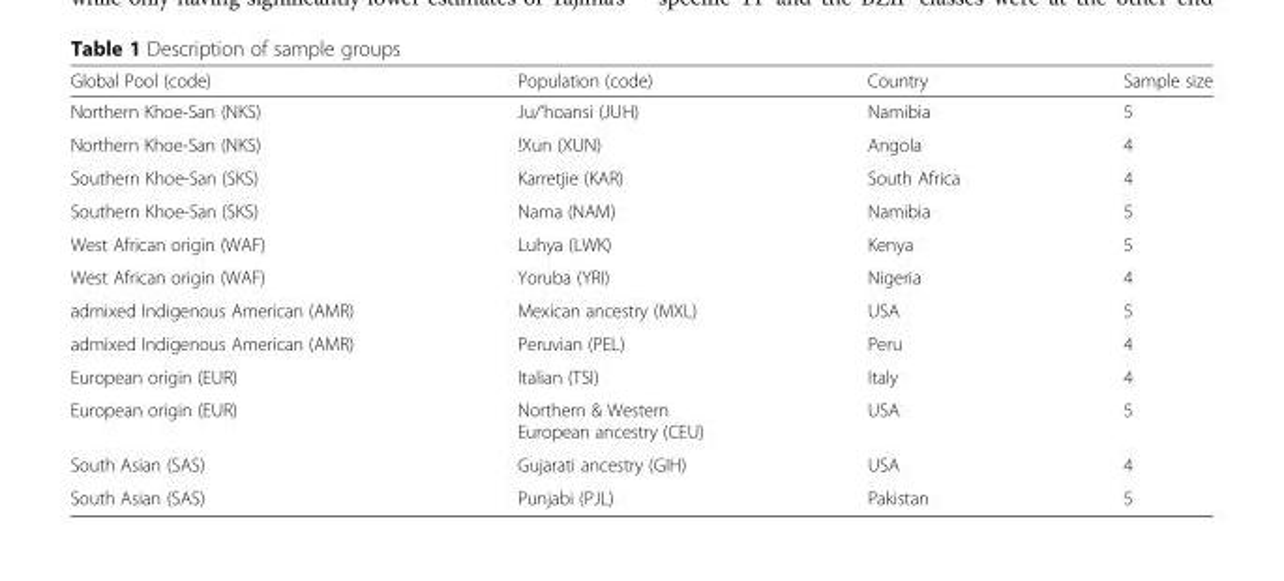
<table><thead><tr><td>Global Pool (code)</td><td>Population (code)</td><td>Country</td><td>Sample size</td></tr></thead><tbody><tr><td>Northern Khoe-San (NKS)</td><td>Ju/‘hoansi (JUH)</td><td>Namibia</td><td>5</td></tr><tr><td>Northern Khoe-San (NKS)</td><td>!Xun (XUN)</td><td>Angola</td><td>4</td></tr><tr><td>Southern Khoe-San (SKS)</td><td>Karretjie (KAR)</td><td>South Africa</td><td>4</td></tr><tr><td>Southern Khoe-San (SKS)</td><td>Nama (NAM)</td><td>Namibia</td><td>5</td></tr><tr><td>West African origin (WAF)</td><td>Luhya (LWK)</td><td>Kenya</td><td>5</td></tr><tr><td>West African origin (WAF)</td><td>Yoruba (YRI)</td><td>Nigeria</td><td>4</td></tr><tr><td>admixed Indigenous American (AMR)</td><td>Mexican ancestry (MXL)</td><td>USA</td><td>5</td></tr><tr><td>admixed Indigenous American (AMR)</td><td>Peruvian (PEL)</td><td>Peru</td><td>4</td></tr><tr><td>European origin (EUR)</td><td>Italian (TSI)</td><td>Italy</td><td>4</td></tr><tr><td>European origin (EUR)</td><td>Northern &amp; Western European ancestry (CEU)</td><td>USA</td><td>5</td></tr><tr><td>South Asian (SAS)</td><td>Gujarati ancestry (GIH)</td><td>USA</td><td>4</td></tr><tr><td>South Asian (SAS)</td><td>Punjabi (PJL)</td><td>Pakistan</td><td>5</td></tr></tbody></table>